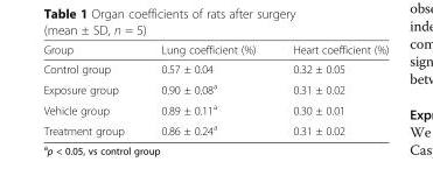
<table><thead><tr><td>Group</td><td>Lung coefficient (%)</td><td>Heart coefficient (%)</td></tr></thead><tbody><tr><td>Control group</td><td>0.57 ± 0.04</td><td>0.32 ± 0.05</td></tr><tr><td>Exposure group</td><td>0.90 ± 0.08<sup>a</sup></td><td>0.31 ± 0.02</td></tr><tr><td>Vehicle group</td><td>0.89 ± 0.11<sup>a</sup></td><td>0.30 ± 0.01</td></tr><tr><td>Treatment group</td><td>0.86 ± 0.24<sup>a</sup></td><td>0.31 ± 0.02</td></tr></tbody></table>